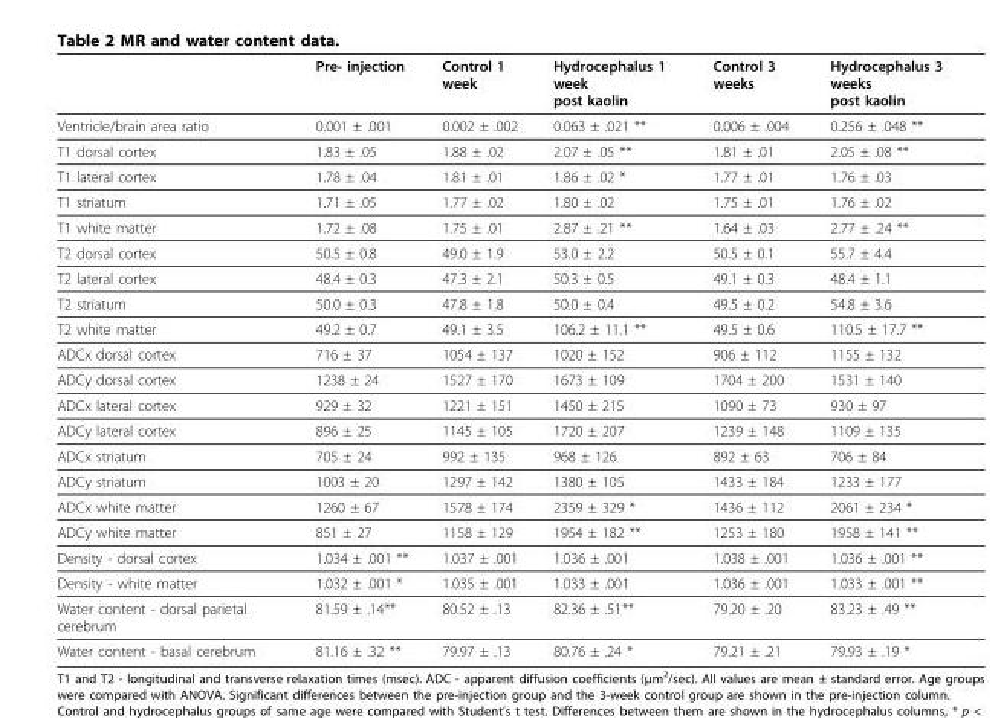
<table><thead><tr><td></td><td>Pre- injection</td><td>Control 1 week</td><td>Hydrocephalus 1 week post kaolin</td><td>Control 3 weeks</td><td>Hydrocephalus 3 weeks post kaolin</td></tr></thead><tbody><tr><td>Ventricle/brain area ratio</td><td>0.001 ± .001</td><td>0.002 ± .002</td><td>0.063 ± .021 **</td><td>0.006 ± .004</td><td>0.256 ± .048 **</td></tr><tr><td>T1 dorsal cortex</td><td>1.83 ± .05</td><td>1.88 ± .02</td><td>2.07 ± .05 **</td><td>1.81 ± .01</td><td>2.05 ± .08 **</td></tr><tr><td>T1 lateral cortex</td><td>1.78 ± .04</td><td>1.81 ± .01</td><td>1.86 ± .02 *</td><td>1.77 ± .01</td><td>1.76 ± .03</td></tr><tr><td>T1 striatum</td><td>1.71 ± .05</td><td>1.77 ± .02</td><td>1.80 ± .02</td><td>1.75 ± .01</td><td>1.76 ± .02</td></tr><tr><td>T1 white matter</td><td>1.72 ± .08</td><td>1.75 ± .01</td><td>2.87 ± .21 **</td><td>1.64 ± .03</td><td>2.77 ± .24 **</td></tr><tr><td>T2 dorsal cortex</td><td>50.5 ± 0.8</td><td>49.0 ± 1.9</td><td>53.0 ± 2.2</td><td>50.5 ± 0.1</td><td>55.7 ± 4.4</td></tr><tr><td>T2 lateral cortex</td><td>48.4 ± 0.3</td><td>47.3 ± 2.1</td><td>50.3 ± 0.5</td><td>49.1 ± 0.3</td><td>48.4 ± 1.1</td></tr><tr><td>T2 striatum</td><td>50.0 ± 0.3</td><td>47.8 ± 1.8</td><td>50.0 ± 0.4</td><td>49.5 ± 0.2</td><td>54.8 ± 3.6</td></tr><tr><td>T2 white matter</td><td>49.2 ± 0.7</td><td>49.1 ± 3.5</td><td>106.2 ± 11.1 **</td><td>49.5 ± 0.6</td><td>110.5 ± 17.7 **</td></tr><tr><td>ADCx dorsal cortex</td><td>716 ± 37</td><td>1054 ± 137</td><td>1020 ± 152</td><td>906 ± 112</td><td>1155 ± 132</td></tr><tr><td>ADCy dorsal cortex</td><td>1238 ± 24</td><td>1527 ± 170</td><td>1673 ± 109</td><td>1704 ± 200</td><td>1531 ± 140</td></tr><tr><td>ADCx lateral cortex</td><td>929 ± 32</td><td>1221 ± 151</td><td>1450 ± 215</td><td>1090 ± 73</td><td>930 ± 97</td></tr><tr><td>ADCy lateral cortex</td><td>896 ± 25</td><td>1145 ± 105</td><td>1720 ± 207</td><td>1239 ± 148</td><td>1109 ± 135</td></tr><tr><td>ADCx striatum</td><td>705 ± 24</td><td>992 ± 135</td><td>968 ± 126</td><td>892 ± 63</td><td>706 ± 84</td></tr><tr><td>ADCy striatum</td><td>1003 ± 20</td><td>1297 ± 142</td><td>1380 ± 105</td><td>1433 ± 184</td><td>1233 ± 177</td></tr><tr><td>ADCx white matter</td><td>1260 ± 67</td><td>1578 ± 174</td><td>2359 ± 329 *</td><td>1436 ± 112</td><td>2061 ± 234 *</td></tr><tr><td>ADCy white matter</td><td>851 ± 27</td><td>1158 ± 129</td><td>1954 ± 182 **</td><td>1253 ± 180</td><td>1958 ± 141 **</td></tr><tr><td>Density - dorsal cortex</td><td>1.034 ± .001 **</td><td>1.037 ± .001</td><td>1.036 ± .001</td><td>1.038 ± .001</td><td>1.036 ± .001 **</td></tr><tr><td>Density - white matter</td><td>1.032 ± .001 *</td><td>1.035 ± .001</td><td>1.033 ± .001</td><td>1.036 ± .001</td><td>1.033 ± .001 **</td></tr><tr><td>Water content - dorsal parietal cerebrum</td><td>81.59 ± .14**</td><td>80.52 ± .13</td><td>82.36 ± .51**</td><td>79.20 ± .20</td><td>83.23 ± .49 **</td></tr><tr><td>Water content - basal cerebrum</td><td>81.16 ± .32 **</td><td>79.97 ± .13</td><td>80.76 ± .24 *</td><td>79.21 ± .21</td><td>79.93 ± .19 *</td></tr></tbody></table>